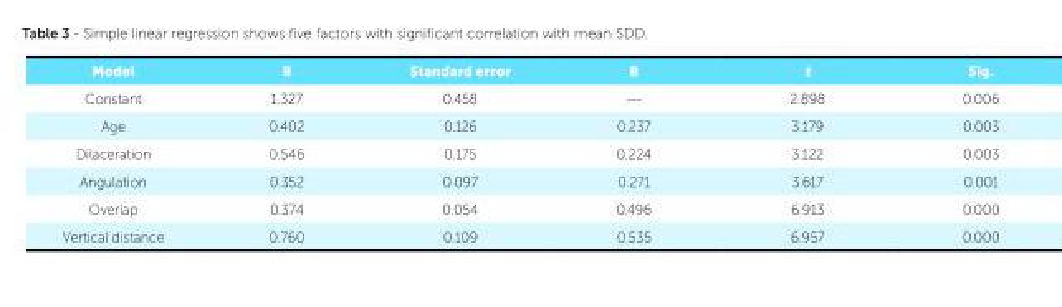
<table><thead><tr><td>Model</td><td>B</td><td>Standard error</td><td>B</td><td>t</td><td>Sig.</td></tr></thead><tbody><tr><td>Constant</td><td>1.327</td><td>0.458</td><td>---</td><td>2.898</td><td>0.006</td></tr><tr><td>Age</td><td>0.402</td><td>0.126</td><td>0.237</td><td>3.179</td><td>0.003</td></tr><tr><td>Dilaceration</td><td>0.546</td><td>0.175</td><td>0.224</td><td>3.122</td><td>0.003</td></tr><tr><td>Angulation</td><td>0.352</td><td>0.097</td><td>0.271</td><td>3.617</td><td>0.001</td></tr><tr><td>Overlap</td><td>0.374</td><td>0.054</td><td>0.496</td><td>6.913</td><td>0.000</td></tr><tr><td>Vertical distance</td><td>0.760</td><td>0.109</td><td>0.535</td><td>6.957</td><td>0.000</td></tr></tbody></table>